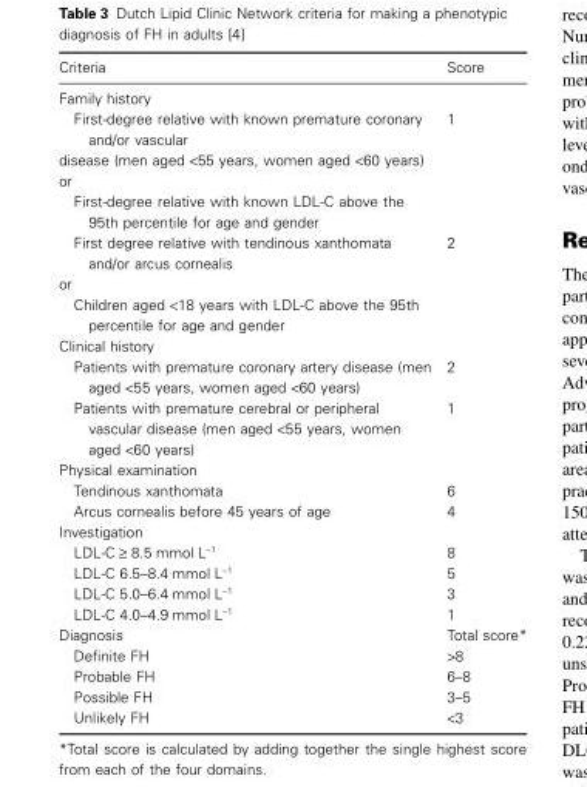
<table><thead><tr><td>Criteria</td><td>Score</td></tr></thead><tbody><tr><td colspan="2">Family history</td></tr><tr><td>First-degree relative with known premature coronary and/or vascular disease (men aged &lt;55 years, women aged &lt;60 years) or First-degree relative with known LDL-C above the 95th percentile for age and gender</td><td>1</td></tr><tr><td>First degree relative with tendinous xanthomata and/or arcus cornealis or Children aged &lt;18 years with LDL-C above the 95th percentile for age and gender</td><td>2</td></tr><tr><td colspan="2">Clinical history</td></tr><tr><td>Patients with premature coronary artery disease (men aged &lt;55 years, women aged &lt;60 years)</td><td>2</td></tr><tr><td>Patients with premature cerebral or peripheral vascular disease (men aged &lt;55 years, women aged &lt;60 years)</td><td>1</td></tr><tr><td colspan="2">Physical examination</td></tr><tr><td>Tendinous xanthomata</td><td>6</td></tr><tr><td>Arcus cornealis before 45 years of age</td><td>4</td></tr><tr><td colspan="2">Investigation</td></tr><tr><td>LDL-C ≥ 8.5 mmol L<sup>−1</sup></td><td>8</td></tr><tr><td>LDL-C 6.5–8.4 mmol L<sup>−1</sup></td><td>5</td></tr><tr><td>LDL-C 5.0–6.4 mmol L<sup>−1</sup></td><td>3</td></tr><tr><td>LDL-C 4.0–4.9 mmol L<sup>−1</sup></td><td>1</td></tr><tr><td>Diagnosis</td><td>Total score*</td></tr><tr><td>Definite FH</td><td>&gt;8</td></tr><tr><td>Probable FH</td><td>6–8</td></tr><tr><td>Possible FH</td><td>3–5</td></tr><tr><td>Unlikely FH</td><td>&lt;3</td></tr></tbody></table>